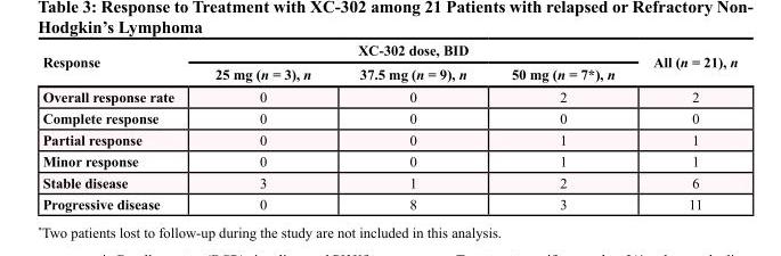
<table><thead><tr><td rowspan="2">Response</td><td colspan="3">XC-302 dose, BID</td><td rowspan="2">All (n = 21), n</td></tr><tr><td>25 mg (n = 3), n</td><td>37.5 mg (n = 9), n</td><td>50 mg (n = 7*), n</td></tr></thead><tbody><tr><td>Overall response rate</td><td>0</td><td>0</td><td>2</td><td>2</td></tr><tr><td>Complete response</td><td>0</td><td>0</td><td>0</td><td>0</td></tr><tr><td>Partial response</td><td>0</td><td>0</td><td>1</td><td>1</td></tr><tr><td>Minor response</td><td>0</td><td>0</td><td>1</td><td>1</td></tr><tr><td>Stable disease</td><td>3</td><td>1</td><td>2</td><td>6</td></tr><tr><td>Progressive disease</td><td>0</td><td>8</td><td>3</td><td>11</td></tr></tbody></table>